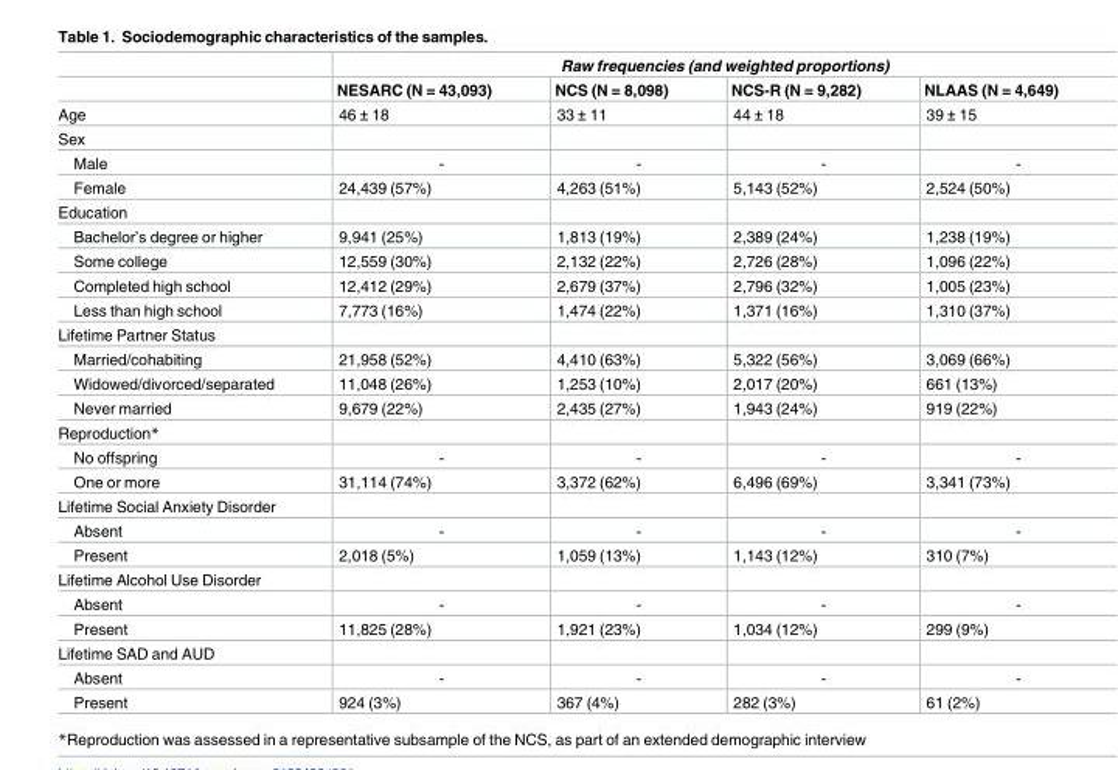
<table><thead><tr><td rowspan="2"></td><td colspan="4">Raw frequencies (and weighted proportions)</td></tr><tr><td>NESARC (N = 43,093)</td><td>NCS (N = 8,098)</td><td>NCS-R (N = 9,282)</td><td>NLAAS (N = 4,649)</td></tr></thead><tbody><tr><td>Age</td><td>46 ± 18</td><td>33 ± 11</td><td>44 ± 18</td><td>39 ± 15</td></tr><tr><td colspan="5">Sex</td></tr><tr><td>Male</td><td>-</td><td>-</td><td>-</td><td>-</td></tr><tr><td>Female</td><td>24,439 (57%)</td><td>4,263 (51%)</td><td>5,143 (52%)</td><td>2,524 (50%)</td></tr><tr><td colspan="5">Education</td></tr><tr><td>Bachelor’s degree or higher</td><td>9,941 (25%)</td><td>1,813 (19%)</td><td>2,389 (24%)</td><td>1,238 (19%)</td></tr><tr><td>Some college</td><td>12,559 (30%)</td><td>2,132 (22%)</td><td>2,726 (28%)</td><td>1,096 (22%)</td></tr><tr><td>Completed high school</td><td>12,412 (29%)</td><td>2,679 (37%)</td><td>2,796 (32%)</td><td>1,005 (23%)</td></tr><tr><td>Less than high school</td><td>7,773 (16%)</td><td>1,474 (22%)</td><td>1,371 (16%)</td><td>1,310 (37%)</td></tr><tr><td colspan="5">Lifetime Partner Status</td></tr><tr><td>Married/cohabiting</td><td>21,958 (52%)</td><td>4,410 (63%)</td><td>5,322 (56%)</td><td>3,069 (66%)</td></tr><tr><td>Widowed/divorced/separated</td><td>11,048 (26%)</td><td>1,253 (10%)</td><td>2,017 (20%)</td><td>661 (13%)</td></tr><tr><td>Never married</td><td>9,679 (22%)</td><td>2,435 (27%)</td><td>1,943 (24%)</td><td>919 (22%)</td></tr><tr><td colspan="5">Reproduction*</td></tr><tr><td>No offspring</td><td>-</td><td>-</td><td>-</td><td>-</td></tr><tr><td>One or more</td><td>31,114 (74%)</td><td>3,372 (62%)</td><td>6,496 (69%)</td><td>3,341 (73%)</td></tr><tr><td colspan="5">Lifetime Social Anxiety Disorder</td></tr><tr><td>Absent</td><td>-</td><td>-</td><td>-</td><td>-</td></tr><tr><td>Present</td><td>2,018 (5%)</td><td>1,059 (13%)</td><td>1,143 (12%)</td><td>310 (7%)</td></tr><tr><td colspan="5">Lifetime Alcohol Use Disorder</td></tr><tr><td>Absent</td><td>-</td><td>-</td><td>-</td><td>-</td></tr><tr><td>Present</td><td>11,825 (28%)</td><td>1,921 (23%)</td><td>1,034 (12%)</td><td>299 (9%)</td></tr><tr><td colspan="5">Lifetime SAD and AUD</td></tr><tr><td>Absent</td><td>-</td><td>-</td><td>-</td><td>-</td></tr><tr><td>Present</td><td>924 (3%)</td><td>367 (4%)</td><td>282 (3%)</td><td>61 (2%)</td></tr></tbody></table>